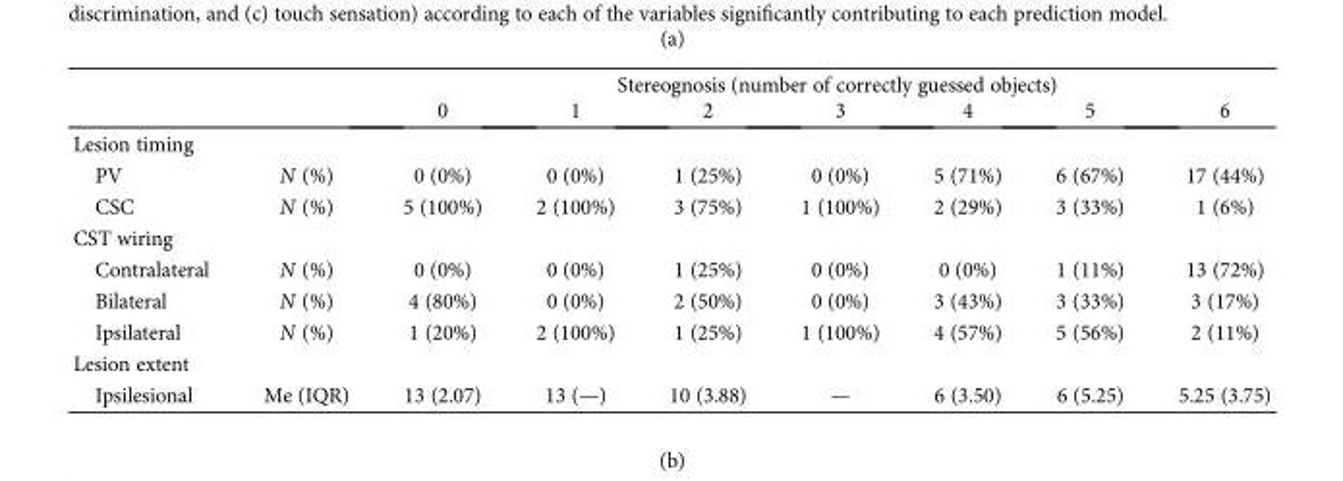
<table><thead><tr><td rowspan="2"></td><td rowspan="2"></td><td colspan="7">Stereognosis (number of correctly guessed objects)</td></tr><tr><td>0</td><td>1</td><td>2</td><td>3</td><td>4</td><td>5</td><td>6</td></tr></thead><tbody><tr><td colspan="9">Lesion timing</td></tr><tr><td>PV</td><td>N (%)</td><td>0 (0%)</td><td>0 (0%)</td><td>1 (25%)</td><td>0 (0%)</td><td>5 (71%)</td><td>6 (67%)</td><td>17 (44%)</td></tr><tr><td>CSC</td><td>N (%)</td><td>5 (100%)</td><td>2 (100%)</td><td>3 (75%)</td><td>1 (100%)</td><td>2 (29%)</td><td>3 (33%)</td><td>1 (6%)</td></tr><tr><td colspan="9">CST wiring</td></tr><tr><td>Contralateral</td><td>N (%)</td><td>0 (0%)</td><td>0 (0%)</td><td>1 (25%)</td><td>0 (0%)</td><td>0 (0%)</td><td>1 (11%)</td><td>13 (72%)</td></tr><tr><td>Bilateral</td><td>N (%)</td><td>4 (80%)</td><td>0 (0%)</td><td>2 (50%)</td><td>0 (0%)</td><td>3 (43%)</td><td>3 (33%)</td><td>3 (17%)</td></tr><tr><td>Ipsilateral</td><td>N (%)</td><td>1 (20%)</td><td>2 (100%)</td><td>1 (25%)</td><td>1 (100%)</td><td>4 (57%)</td><td>5 (56%)</td><td>2 (11%)</td></tr><tr><td colspan="9">Lesion extent</td></tr><tr><td>Ipsilesional</td><td>Me (IQR)</td><td>13 (2.07)</td><td>13 (—)</td><td>10 (3.88)</td><td>—</td><td>6 (3.50)</td><td>6 (5.25)</td><td>5.25 (3.75)</td></tr></tbody></table>